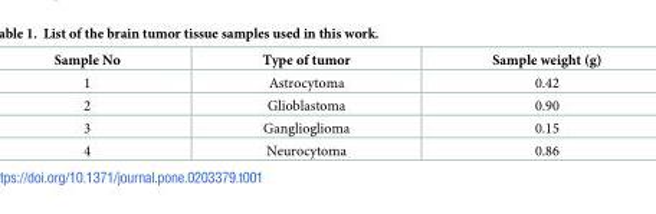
<table><thead><tr><td>Sample No</td><td>Type of tumor</td><td>Sample weight (g)</td></tr></thead><tbody><tr><td>1</td><td>Astrocytoma</td><td>0.42</td></tr><tr><td>2</td><td>Glioblastoma</td><td>0.90</td></tr><tr><td>3</td><td>Ganglioglioma</td><td>0.15</td></tr><tr><td>4</td><td>Neurocytoma</td><td>0.86</td></tr></tbody></table>